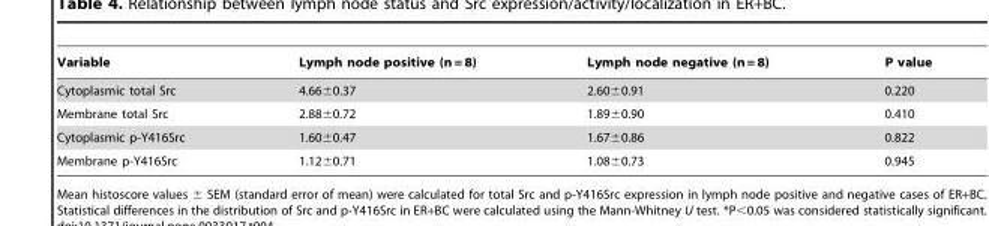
<table><thead><tr><td>Variable</td><td>Lymph node positive (n = 8)</td><td>Lymph node negative (n = 8)</td><td>P value</td></tr></thead><tbody><tr><td>Cytoplasmic total Src</td><td>4.66±0.37</td><td>2.60±0.91</td><td>0.220</td></tr><tr><td>Membrane total Src</td><td>2.88±0.72</td><td>1.89±0.90</td><td>0.410</td></tr><tr><td>Cytoplasmic p-Y416Src</td><td>1.60±0.47</td><td>1.67±0.86</td><td>0.822</td></tr><tr><td>Membrane p-Y416Src</td><td>1.12±0.71</td><td>1.08±0.73</td><td>0.945</td></tr></tbody></table>